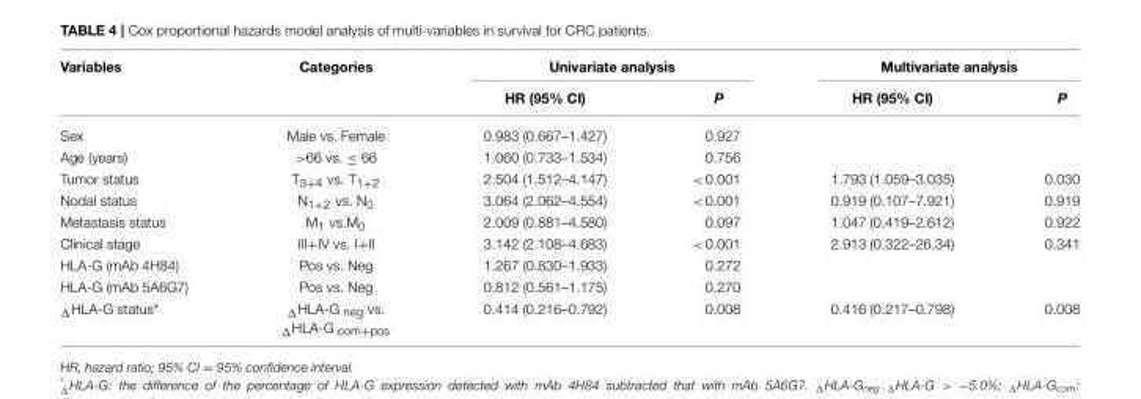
<table><thead><tr><td rowspan="2">Variables</td><td rowspan="2">Categories</td><td colspan="2">Univariate analysis</td><td colspan="2">Multivariate analysis</td></tr><tr><td>HR (95% CI)</td><td>P</td><td>HR (95% CI)</td><td>P</td></tr></thead><tbody><tr><td>Sex</td><td>Male vs. Female</td><td>0.983 (0.667–1.427)</td><td>0.927</td><td></td><td></td></tr><tr><td>Age (years)</td><td>&gt;66 vs. ≤ 66</td><td>1.060 (0.733–1.534)</td><td>0.756</td><td></td><td></td></tr><tr><td>Tumor status</td><td>T<sub>3+4</sub> vs. T<sub>1+2</sub></td><td>2.504 (1.512–4.147)</td><td>&lt;0.001</td><td>1.793 (1.059–3.035)</td><td>0.030</td></tr><tr><td>Nodal status</td><td>N<sub>1+2</sub> vs. N<sub>0</sub></td><td>3.064 (2.062–4.554)</td><td>&lt;0.001</td><td>0.919 (0.107–7.921)</td><td>0.919</td></tr><tr><td>Metastasis status</td><td>M<sub>1</sub> vs.M<sub>0</sub></td><td>2.009 (0.881–4.580)</td><td>0.097</td><td>1.047 (0.419–2.612)</td><td>0.922</td></tr><tr><td>Clinical stage</td><td>III+IV vs. I+II</td><td>3.142 (2.108–4.683)</td><td>&lt;0.001</td><td>2.913 (0.322–26.34)</td><td>0.341</td></tr><tr><td>HLA-G (mAb 4H84)</td><td>Pos vs. Neg</td><td>1.267 (0.830–1.933)</td><td>0.272</td><td></td><td></td></tr><tr><td>HLA-G (mAb 5A6G7)</td><td>Pos vs. Neg</td><td>0.812 (0.561–1.175)</td><td>0.270</td><td></td><td></td></tr><tr><td><sub>Δ</sub>HLA-G status*</td><td><sub>Δ</sub>HLA-G <sub>neg</sub> vs. <sub>Δ</sub>HLA-G <sub>com+pos</sub></td><td>0.414 (0.216–0.792)</td><td>0.008</td><td>0.416 (0.217–0.798)</td><td>0.008</td></tr></tbody></table>